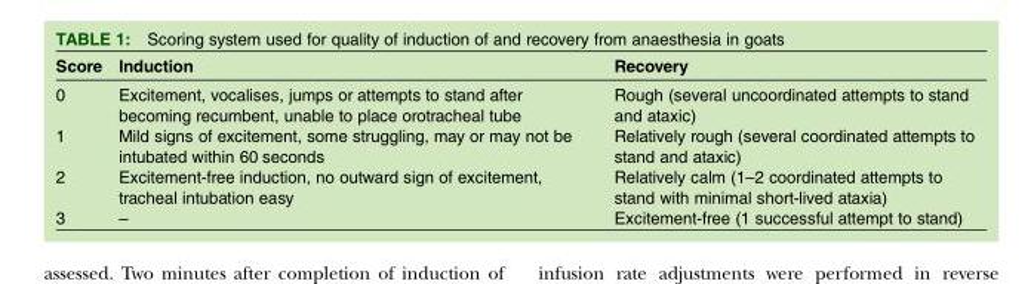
<table><thead><tr><td>Score</td><td>Induction</td><td>Recovery</td></tr></thead><tbody><tr><td>0</td><td>Excitement, vocalises, jumps or attempts to stand after becoming recumbent, unable to place orotracheal tube</td><td>Rough (several uncoordinated attempts to stand and ataxic)</td></tr><tr><td>1</td><td>Mild signs of excitement, some struggling, may or may not be intubated within 60 seconds</td><td>Relatively rough (several coordinated attempts to stand and ataxic)</td></tr><tr><td>2</td><td>Excitement-free induction, no outward sign of excitement, tracheal intubation easy</td><td>Relatively calm (1–2 coordinated attempts to stand with minimal short-lived ataxia)</td></tr><tr><td>3</td><td>–</td><td>Excitement-free (1 successful attempt to stand)</td></tr></tbody></table>